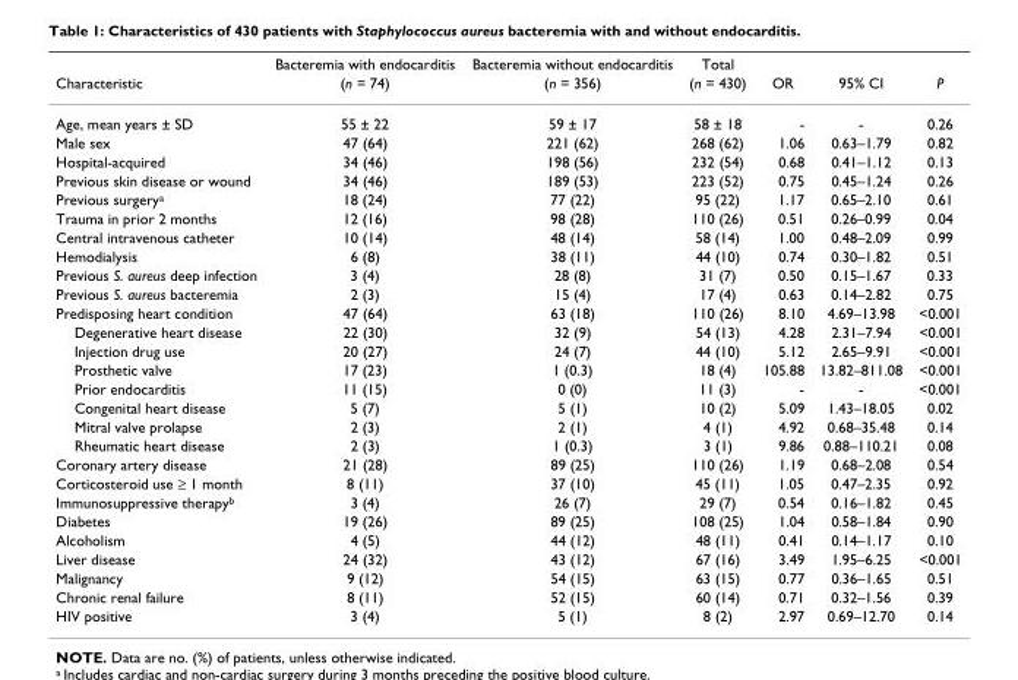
<table><thead><tr><td rowspan="2">Characteristic</td><td rowspan="2">Bacteremia with endocarditis (n = 74)</td><td rowspan="2">Bacteremia without endocarditis (n = 356)</td><td rowspan="2">Total (n = 430)</td><td rowspan="2">OR</td><td rowspan="2">95% CI</td><td rowspan="2">P</td></tr><tr></tr></thead><tbody><tr><td>Age, mean years ± SD</td><td>55 ± 22</td><td>59 ± 17</td><td>58 ± 18</td><td>-</td><td>-</td><td>0.26</td></tr><tr><td>Male sex</td><td>47 (64)</td><td>221 (62)</td><td>268 (62)</td><td>1.06</td><td>0.63–1.79</td><td>0.82</td></tr><tr><td>Hospital-acquired</td><td>34 (46)</td><td>198 (56)</td><td>232 (54)</td><td>0.68</td><td>0.41–1.12</td><td>0.13</td></tr><tr><td>Previous skin disease or wound</td><td>34 (46)</td><td>189 (53)</td><td>223 (52)</td><td>0.75</td><td>0.45–1.24</td><td>0.26</td></tr><tr><td>Previous surgery<sup>a</sup></td><td>18 (24)</td><td>77 (22)</td><td>95 (22)</td><td>1.17</td><td>0.65–2.10</td><td>0.61</td></tr><tr><td>Trauma in prior 2 months</td><td>12 (16)</td><td>98 (28)</td><td>110 (26)</td><td>0.51</td><td>0.26–0.99</td><td>0.04</td></tr><tr><td>Central intravenous catheter</td><td>10 (14)</td><td>48 (14)</td><td>58 (14)</td><td>1.00</td><td>0.48–2.09</td><td>0.99</td></tr><tr><td>Hemodialysis</td><td>6 (8)</td><td>38 (11)</td><td>44 (10)</td><td>0.74</td><td>0.30–1.82</td><td>0.51</td></tr><tr><td>Previous S. aureus deep infection</td><td>3 (4)</td><td>28 (8)</td><td>31 (7)</td><td>0.50</td><td>0.15–1.67</td><td>0.33</td></tr><tr><td>Previous S. aureus bacteremia</td><td>2 (3)</td><td>15 (4)</td><td>17 (4)</td><td>0.63</td><td>0.14–2.82</td><td>0.75</td></tr><tr><td>Predisposing heart condition</td><td>47 (64)</td><td>63 (18)</td><td>110 (26)</td><td>8.10</td><td>4.69–13.98</td><td>&lt;0.001</td></tr><tr><td>Degenerative heart disease</td><td>22 (30)</td><td>32 (9)</td><td>54 (13)</td><td>4.28</td><td>2.31–7.94</td><td>&lt;0.001</td></tr><tr><td>Injection drug use</td><td>20 (27)</td><td>24 (7)</td><td>44 (10)</td><td>5.12</td><td>2.65–9.91</td><td>&lt;0.001</td></tr><tr><td>Prosthetic valve</td><td>17 (23)</td><td>1 (0.3)</td><td>18 (4)</td><td>105.88</td><td>13.82–811.08</td><td>&lt;0.001</td></tr><tr><td>Prior endocarditis</td><td>11 (15)</td><td>0 (0)</td><td>11 (3)</td><td>-</td><td>-</td><td>&lt;0.001</td></tr><tr><td>Congenital heart disease</td><td>5 (7)</td><td>5 (1)</td><td>10 (2)</td><td>5.09</td><td>1.43–18.05</td><td>0.02</td></tr><tr><td>Mitral valve prolapse</td><td>2 (3)</td><td>2 (1)</td><td>4 (1)</td><td>4.92</td><td>0.68–35.48</td><td>0.14</td></tr><tr><td>Rheumatic heart disease</td><td>2 (3)</td><td>1 (0.3)</td><td>3 (1)</td><td>9.86</td><td>0.88–110.21</td><td>0.08</td></tr><tr><td>Coronary artery disease</td><td>21 (28)</td><td>89 (25)</td><td>110 (26)</td><td>1.19</td><td>0.68–2.08</td><td>0.54</td></tr><tr><td>Corticosteroid use ≥ 1 month</td><td>8 (11)</td><td>37 (10)</td><td>45 (11)</td><td>1.05</td><td>0.47–2.35</td><td>0.92</td></tr><tr><td>Immunosuppressive therapy<sup>b</sup></td><td>3 (4)</td><td>26 (7)</td><td>29 (7)</td><td>0.54</td><td>0.16–1.82</td><td>0.45</td></tr><tr><td>Diabetes</td><td>19 (26)</td><td>89 (25)</td><td>108 (25)</td><td>1.04</td><td>0.58–1.84</td><td>0.90</td></tr><tr><td>Alcoholism</td><td>4 (5)</td><td>44 (12)</td><td>48 (11)</td><td>0.41</td><td>0.14–1.17</td><td>0.10</td></tr><tr><td>Liver disease</td><td>24 (32)</td><td>43 (12)</td><td>67 (16)</td><td>3.49</td><td>1.95–6.25</td><td>&lt;0.001</td></tr><tr><td>Malignancy</td><td>9 (12)</td><td>54 (15)</td><td>63 (15)</td><td>0.77</td><td>0.36–1.65</td><td>0.51</td></tr><tr><td>Chronic renal failure</td><td>8 (11)</td><td>52 (15)</td><td>60 (14)</td><td>0.71</td><td>0.32–1.56</td><td>0.39</td></tr><tr><td>HIV positive</td><td>3 (4)</td><td>5 (1)</td><td>8 (2)</td><td>2.97</td><td>0.69–12.70</td><td>0.14</td></tr></tbody></table>